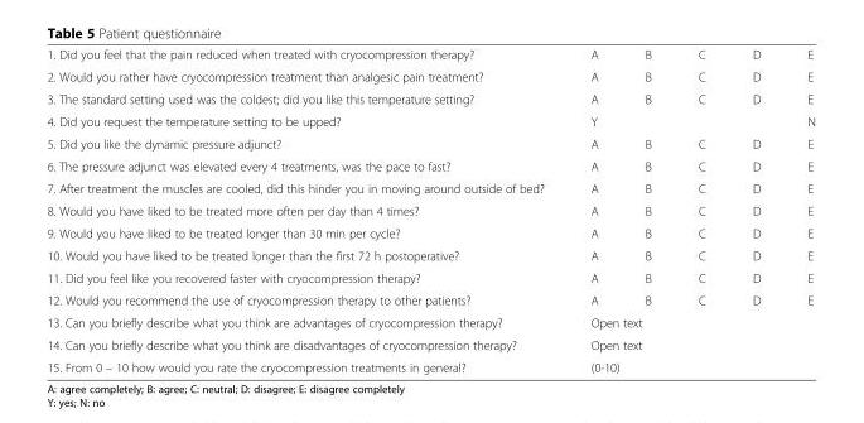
<table><tbody><tr><td>1. Did you feel that the pain reduced when treated with cryocompression therapy?</td><td>A</td><td>B</td><td>C</td><td>D</td><td>E</td></tr><tr><td>2. Would you rather have cryocompression treatment than analgesic pain treatment?</td><td>A</td><td>B</td><td>C</td><td>D</td><td>E</td></tr><tr><td>3. The standard setting used was the coldest; did you like this temperature setting?</td><td>A</td><td>B</td><td>C</td><td>D</td><td>E</td></tr><tr><td>4. Did you request the temperature setting to be upped?</td><td>Y</td><td></td><td></td><td></td><td>N</td></tr><tr><td>5. Did you like the dynamic pressure adjunct?</td><td>A</td><td>B</td><td>C</td><td>D</td><td>E</td></tr><tr><td>6. The pressure adjunct was elevated every 4 treatments, was the pace to fast?</td><td>A</td><td>B</td><td>C</td><td>D</td><td>E</td></tr><tr><td>7. After treatment the muscles are cooled, did this hinder you in moving around outside of bed?</td><td>A</td><td>B</td><td>C</td><td>D</td><td>E</td></tr><tr><td>8. Would you have liked to be treated more often per day than 4 times?</td><td>A</td><td>B</td><td>C</td><td>D</td><td>E</td></tr><tr><td>9. Would you have liked to be treated longer than 30 min per cycle?</td><td>A</td><td>B</td><td>C</td><td>D</td><td>E</td></tr><tr><td>10. Would you have liked to be treated longer than the first 72 h postoperative?</td><td>A</td><td>B</td><td>C</td><td>D</td><td>E</td></tr><tr><td>11. Did you feel like you recovered faster with cryocompression therapy?</td><td>A</td><td>B</td><td>C</td><td>D</td><td>E</td></tr><tr><td>12. Would you recommend the use of cryocompression therapy to other patients?</td><td>A</td><td>B</td><td>C</td><td>D</td><td>E</td></tr><tr><td>13. Can you briefly describe what you think are advantages of cryocompression therapy?</td><td colspan="5">Open text</td></tr><tr><td>14. Can you briefly describe what you think are disadvantages of cryocompression therapy?</td><td colspan="5">Open text</td></tr><tr><td>15. From 0 – 10 how would you rate the cryocompression treatments in general?</td><td colspan="5">(0-10)</td></tr></tbody></table>